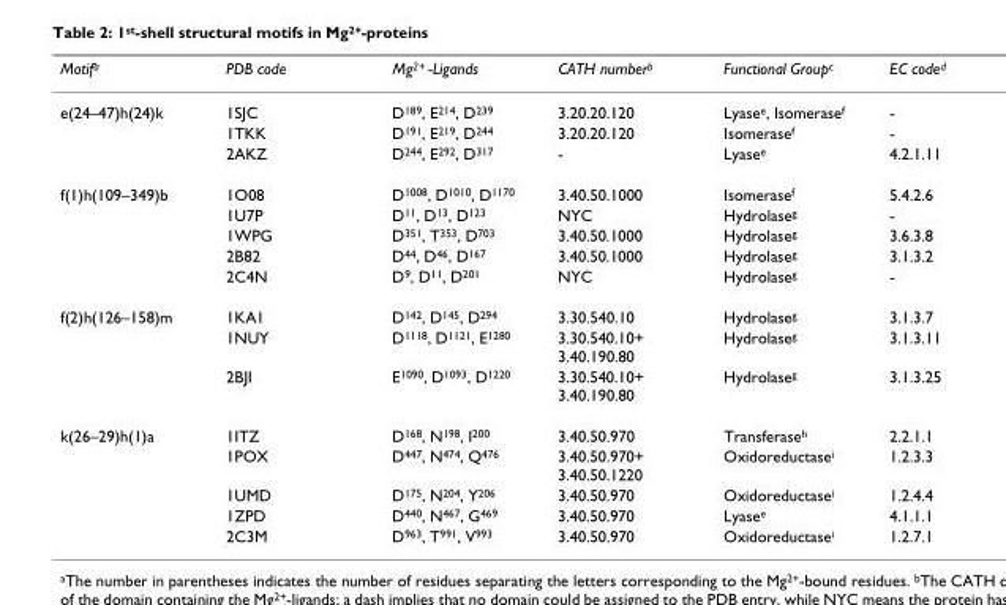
<table><thead><tr><td>Motif<sup>a</sup></td><td>PDB code</td><td>Mg<sup>2+</sup> -Ligands</td><td>CATH number<sup>b</sup></td><td>Functional Group<sup>c</sup></td><td>EC code<sup>d</sup></td></tr></thead><tbody><tr><td rowspan="3">e(24–47)h(24)k</td><td>1SJC</td><td>D<sup>189</sup>, E<sup>214</sup>, D<sup>239</sup></td><td>3.20.20.120</td><td>Lyase<sup>e</sup>, Isomerase<sup>f</sup></td><td>-</td></tr><tr><td>1TKK</td><td>D<sup>191</sup>, E<sup>219</sup>, D<sup>244</sup></td><td>3.20.20.120</td><td>Isomerase<sup>f</sup></td><td>-</td></tr><tr><td>2AKZ</td><td>D<sup>244</sup>, E<sup>292</sup>, D<sup>317</sup></td><td>-</td><td>Lyase<sup>e</sup></td><td>4.2.1.11</td></tr><tr><td rowspan="5">f(1)h(109–349)b</td><td>1O08</td><td>D<sup>1008</sup>, D<sup>1010</sup>, D<sup>1170</sup></td><td>3.40.50.1000</td><td>Isomerase<sup>f</sup></td><td>5.4.2.6</td></tr><tr><td>1U7P</td><td>D<sup>11</sup>, D<sup>13</sup>, D<sup>123</sup></td><td>NYC</td><td>Hydrolase<sup>g</sup></td><td>-</td></tr><tr><td>1WPG</td><td>D<sup>351</sup>, T<sup>353</sup>, D<sup>703</sup></td><td>3.40.50.1000</td><td>Hydrolase<sup>g</sup></td><td>3.6.3.8</td></tr><tr><td>2B82</td><td>D<sup>44</sup>, D<sup>46</sup>, D<sup>167</sup></td><td>3.40.50.1000</td><td>Hydrolase<sup>g</sup></td><td>3.1.3.2</td></tr><tr><td>2C4N</td><td>D<sup>9</sup>, D<sup>11</sup>, D<sup>201</sup></td><td>NYC</td><td>Hydrolase<sup>g</sup></td><td>-</td></tr><tr><td rowspan="3">f(2)h(126–158)m</td><td>1KA1</td><td>D<sup>142</sup>, D<sup>145</sup>, D<sup>294</sup></td><td>3.30.540.10</td><td>Hydrolase<sup>g</sup></td><td>3.1.3.7</td></tr><tr><td>1NUY</td><td>D<sup>1118</sup>, D<sup>1121</sup>, E<sup>1280</sup></td><td>3.30.540.10+ 3.40.190.80</td><td>Hydrolase<sup>g</sup></td><td>3.1.3.11</td></tr><tr><td>2BJI</td><td>E<sup>1090</sup>, D<sup>1093</sup>, D<sup>1220</sup></td><td>3.30.540.10+ 3.40.190.80</td><td>Hydrolase<sup>g</sup></td><td>3.1.3.25</td></tr><tr><td rowspan="5">k(26–29)h(1)a</td><td>1ITZ</td><td>D<sup>168</sup>, N<sup>198</sup>, I<sup>200</sup></td><td>3.40.50.970</td><td>Transferase<sup>h</sup></td><td>2.2.1.1</td></tr><tr><td>1POX</td><td>D<sup>447</sup>, N<sup>474</sup>, Q<sup>476</sup></td><td>3.40.50.970+ 3.40.50.1220</td><td>Oxidoreductase<sup>i</sup></td><td>1.2.3.3</td></tr><tr><td>1UMD</td><td>D<sup>175</sup>, N<sup>204</sup>, Y<sup>206</sup></td><td>3.40.50.970</td><td>Oxidoreductase<sup>i</sup></td><td>1.2.4.4</td></tr><tr><td>1ZPD</td><td>D<sup>440</sup>, N<sup>467</sup>, G<sup>469</sup></td><td>3.40.50.970</td><td>Lyase<sup>e</sup></td><td>4.1.1.1</td></tr><tr><td>2C3M</td><td>D<sup>963</sup>, T<sup>991</sup>, V<sup>993</sup></td><td>3.40.50.970</td><td>Oxidoreductase<sup>i</sup></td><td>1.2.7.1</td></tr></tbody></table>